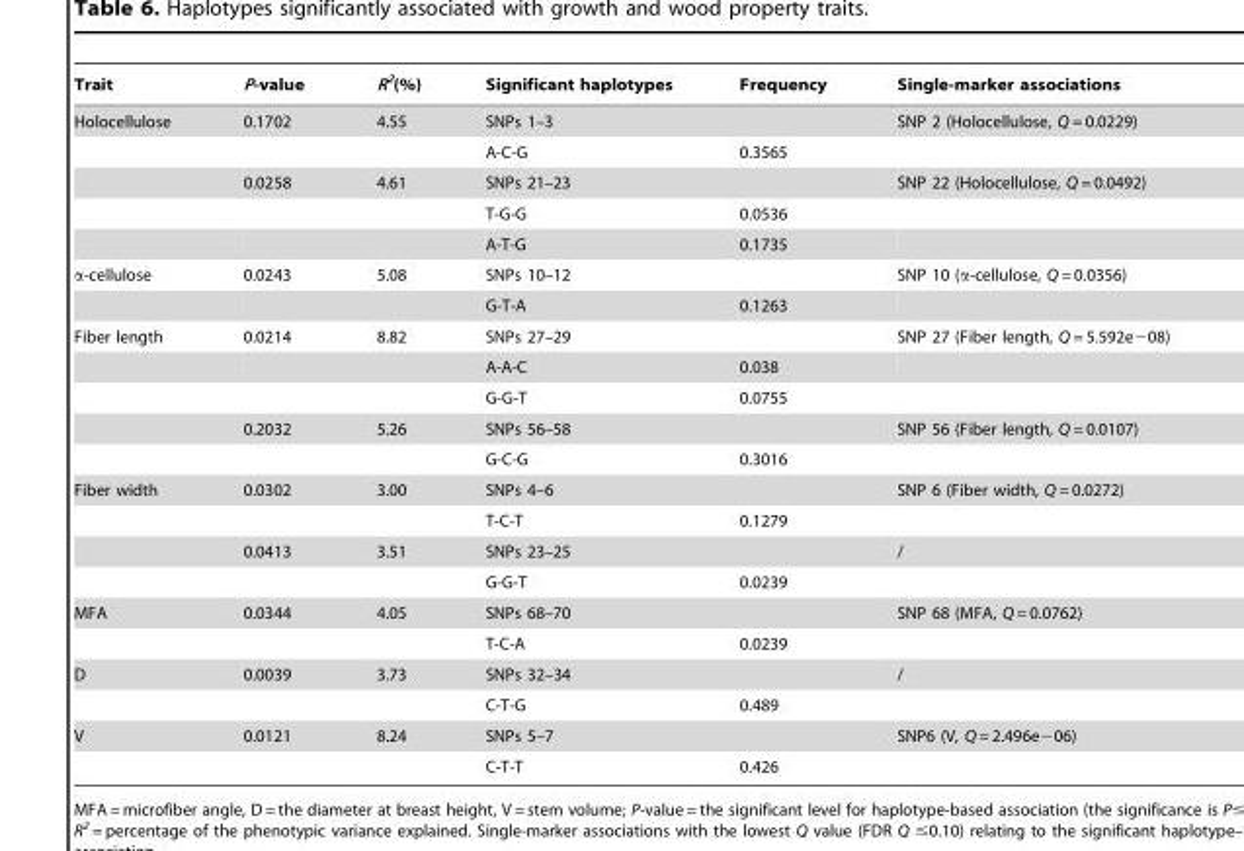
<table><thead><tr><td>Trait</td><td>P-value</td><td>R<sup>2</sup>(%)</td><td>Significant haplotypes</td><td>Frequency</td><td>Single-marker associations</td></tr></thead><tbody><tr><td rowspan="5">Holocellulose</td><td>0.1702</td><td>4.55</td><td>SNPs 1–3</td><td></td><td>SNP 2 (Holocellulose, Q = 0.0229)</td></tr><tr><td></td><td></td><td>A-C-G</td><td>0.3565</td><td></td></tr><tr><td>0.0258</td><td>4.61</td><td>SNPs 21–23</td><td></td><td>SNP 22 (Holocellulose, Q = 0.0492)</td></tr><tr><td></td><td></td><td>T-G-G</td><td>0.0536</td><td></td></tr><tr><td></td><td></td><td>A-T-G</td><td>0.1735</td><td></td></tr><tr><td rowspan="2">α-cellulose</td><td>0.0243</td><td>5.08</td><td>SNPs 10–12</td><td></td><td>SNP 10 (α-cellulose, Q = 0.0356)</td></tr><tr><td></td><td></td><td>G-T-A</td><td>0.1263</td><td></td></tr><tr><td rowspan="5">Fiber length</td><td>0.0214</td><td>8.82</td><td>SNPs 27–29</td><td></td><td>SNP 27 (Fiber length, Q = 5.592e−08)</td></tr><tr><td></td><td></td><td>A-A-C</td><td>0.038</td><td></td></tr><tr><td></td><td></td><td>G-G-T</td><td>0.0755</td><td></td></tr><tr><td>0.2032</td><td>5.26</td><td>SNPs 56–58</td><td></td><td>SNP 56 (Fiber length, Q = 0.0107)</td></tr><tr><td></td><td></td><td>G-C-G</td><td>0.3016</td><td></td></tr><tr><td rowspan="4">Fiber width</td><td>0.0302</td><td>3.00</td><td>SNPs 4–6</td><td></td><td>SNP 6 (Fiber width, Q = 0.0272)</td></tr><tr><td></td><td></td><td>T-C-T</td><td>0.1279</td><td></td></tr><tr><td>0.0413</td><td>3.51</td><td>SNPs 23–25</td><td></td><td>/</td></tr><tr><td></td><td></td><td>G-G-T</td><td>0.0239</td><td></td></tr><tr><td rowspan="2">MFA</td><td>0.0344</td><td>4.05</td><td>SNPs 68–70</td><td></td><td>SNP 68 (MFA, Q = 0.0762)</td></tr><tr><td></td><td></td><td>T-C-A</td><td>0.0239</td><td></td></tr><tr><td rowspan="2">D</td><td>0.0039</td><td>3.73</td><td>SNPs 32–34</td><td></td><td>/</td></tr><tr><td></td><td></td><td>C-T-G</td><td>0.489</td><td></td></tr><tr><td rowspan="2">V</td><td>0.0121</td><td>8.24</td><td>SNPs 5–7</td><td></td><td>SNP6 (V, Q = 2.496e−06)</td></tr><tr><td></td><td></td><td>C-T-T</td><td>0.426</td><td></td></tr></tbody></table>